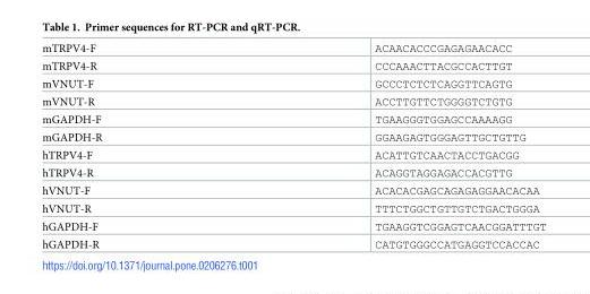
<table><tbody><tr><td>mTRPV4-F</td><td>ACAACACCCGAGAGAACACC</td></tr><tr><td>mTRPV4-R</td><td>CCCAAACTTACGCCACTTGT</td></tr><tr><td>mVNUT-F</td><td>GCCCTCTCTCAGGTTCAGTG</td></tr><tr><td>mVNUT-R</td><td>ACCTTGTTCTGGGGTCTGTG</td></tr><tr><td>mGAPDH-F</td><td>TGAAGGGTGGAGCCAAAAGG</td></tr><tr><td>mGAPDH-R</td><td>GGAAGAGTGGGAGTTGCTGTTG</td></tr><tr><td>hTRPV4-F</td><td>ACATTGTCAACTACCTGACGG</td></tr><tr><td>hTRPV4-R</td><td>ACAGGTAGGAGACCACGTTG</td></tr><tr><td>hVNUT-F</td><td>ACACACGAGCAGAGAGGAACACAA</td></tr><tr><td>hVNUT-R</td><td>TTTCTGGCTGTTGTCTGACTGGGA</td></tr><tr><td>hGAPDH-F</td><td>TGAAGGTCGGAGTCAACGGATTTGT</td></tr><tr><td>hGAPDH-R</td><td>CATGTGGGCCATGAGGTCCACCAC</td></tr></tbody></table>